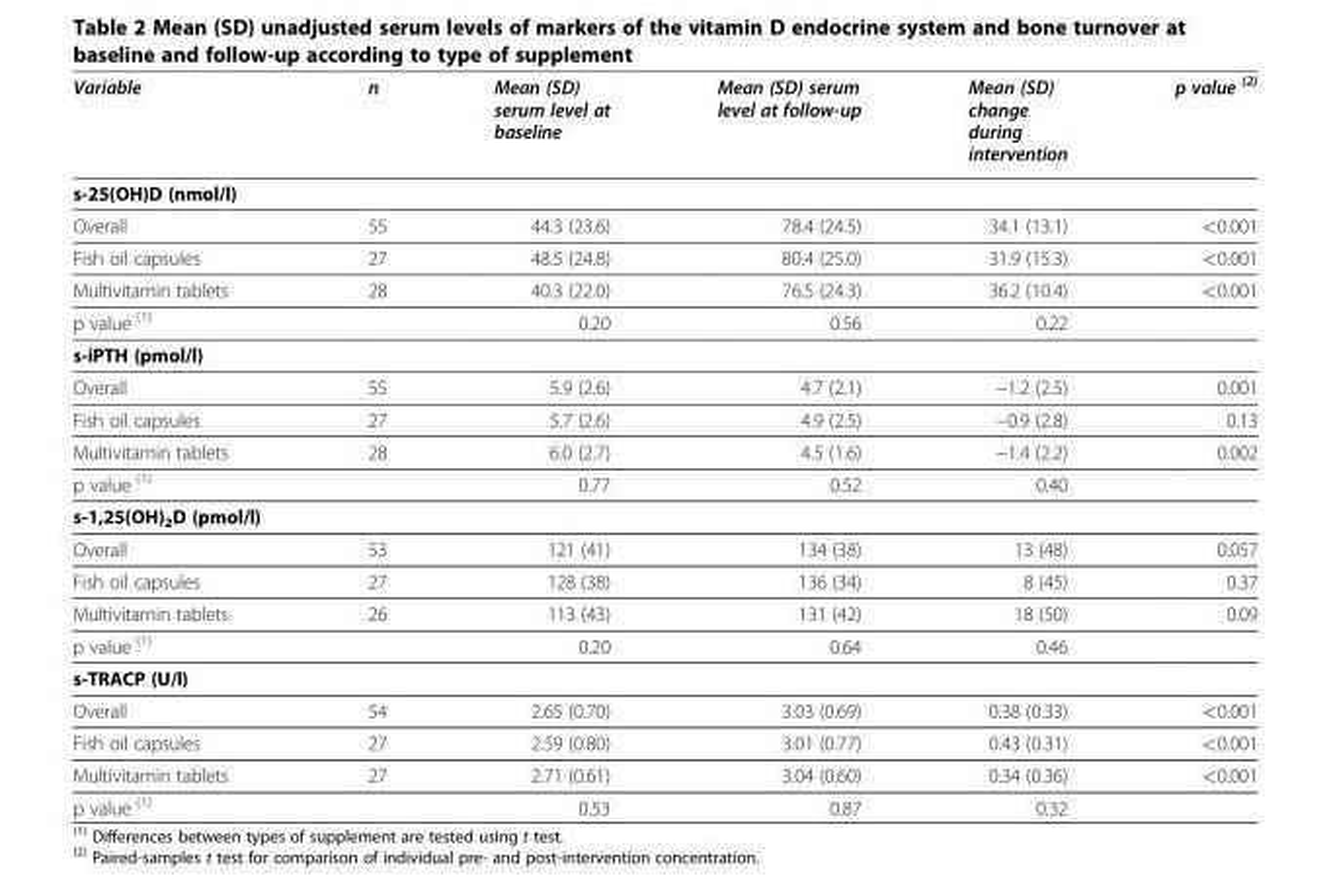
<table><thead><tr><td>Variable</td><td>n</td><td>Mean (SD) serum level at baseline</td><td>Mean (SD) serum level at follow-up</td><td>Mean (SD) change during intervention</td><td>p value <sup>(2)</sup></td></tr></thead><tbody><tr><td colspan="6">s-25(OH)D (nmol/l)</td></tr><tr><td>Overall</td><td>55</td><td>44.3 (23.6)</td><td>78.4 (24.5)</td><td>34.1 (13.1)</td><td>&lt;0.001</td></tr><tr><td>Fish oil capsules</td><td>27</td><td>48.5 (24.8)</td><td>80.4 (25.0)</td><td>31.9 (15.3)</td><td>&lt;0.001</td></tr><tr><td>Multivitamin tablets</td><td>28</td><td>40.3 (22.0)</td><td>76.5 (24.3)</td><td>36.2 (10.4)</td><td>&lt;0.001</td></tr><tr><td>p value <sup>(1)</sup></td><td></td><td>0.20</td><td>0.56</td><td>0.22</td><td></td></tr><tr><td colspan="6">s-iPTH (pmol/l)</td></tr><tr><td>Overall</td><td>55</td><td>5.9 (2.6)</td><td>4.7 (2.1)</td><td>−1.2 (2.5)</td><td>0.001</td></tr><tr><td>Fish oil capsules</td><td>27</td><td>5.7 (2.6)</td><td>4.9 (2.5)</td><td>−0.9 (2.8)</td><td>0.13</td></tr><tr><td>Multivitamin tablets</td><td>28</td><td>6.0 (2.7)</td><td>4.5 (1.6)</td><td>−1.4 (2.2)</td><td>0.002</td></tr><tr><td>p value <sup>(1)</sup></td><td></td><td>0.77</td><td>0.52</td><td>0.40</td><td></td></tr><tr><td colspan="6">s-1,25(OH)<sub>2</sub>D (pmol/l)</td></tr><tr><td>Overall</td><td>53</td><td>121 (41)</td><td>134 (38)</td><td>13 (48)</td><td>0.057</td></tr><tr><td>Fish oil capsules</td><td>27</td><td>128 (38)</td><td>136 (34)</td><td>8 (45)</td><td>0.37</td></tr><tr><td>Multivitamin tablets</td><td>26</td><td>113 (43)</td><td>131 (42)</td><td>18 (50)</td><td>0.09</td></tr><tr><td>p value <sup>(1)</sup></td><td></td><td>0.20</td><td>0.64</td><td>0.46</td><td></td></tr><tr><td colspan="6">s-TRACP (U/l)</td></tr><tr><td>Overall</td><td>54</td><td>2.65 (0.70)</td><td>3.03 (0.69)</td><td>0.38 (0.33)</td><td>&lt;0.001</td></tr><tr><td>Fish oil capsules</td><td>27</td><td>2.59 (0.80)</td><td>3.01 (0.77)</td><td>0.43 (0.31)</td><td>&lt;0.001</td></tr><tr><td>Multivitamin tablets</td><td>27</td><td>2.71 (0.61)</td><td>3.04 (0.60)</td><td>0.34 (0.36)</td><td>&lt;0.001</td></tr><tr><td>p value <sup>(1)</sup></td><td></td><td>0.53</td><td>0.87</td><td>0.32</td><td></td></tr></tbody></table>